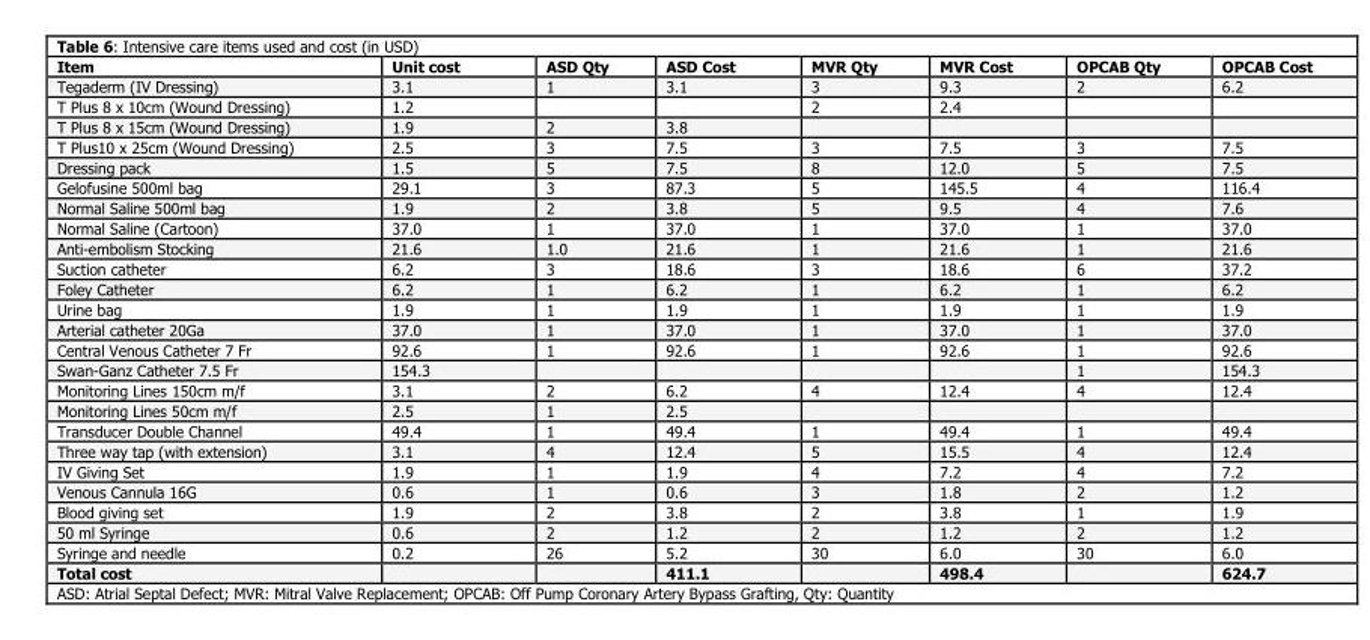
<table><thead><tr><td>Item</td><td>Unit cost</td><td>ASD Qty</td><td>ASD Cost</td><td>MVR Qty</td><td>MVR Cost</td><td>OPCAB Qty</td><td>OPCAB Cost</td></tr></thead><tbody><tr><td>Tegaderm (IV Dressing)</td><td>3.1</td><td>1</td><td>3.1</td><td>3</td><td>9.3</td><td>2</td><td>6.2</td></tr><tr><td>T Plus 8 x 10cm (Wound Dressing)</td><td>1.2</td><td></td><td></td><td>2</td><td>2.4</td><td></td><td></td></tr><tr><td>T Plus 8 x 15cm (Wound Dressing)</td><td>1.9</td><td>2</td><td>3.8</td><td></td><td></td><td></td><td></td></tr><tr><td>T Plus10 x 25cm (Wound Dressing)</td><td>2.5</td><td>3</td><td>7.5</td><td>3</td><td>7.5</td><td>3</td><td>7.5</td></tr><tr><td>Dressing pack</td><td>1.5</td><td>5</td><td>7.5</td><td>8</td><td>12.0</td><td>5</td><td>7.5</td></tr><tr><td>Gelofusine 500ml bag</td><td>29.1</td><td>3</td><td>87.3</td><td>5</td><td>145.5</td><td>4</td><td>116.4</td></tr><tr><td>Normal Saline 500ml bag</td><td>1.9</td><td>2</td><td>3.8</td><td>5</td><td>9.5</td><td>4</td><td>7.6</td></tr><tr><td>Normal Saline (Cartoon)</td><td>37.0</td><td>1</td><td>37.0</td><td>1</td><td>37.0</td><td>1</td><td>37.0</td></tr><tr><td>Anti-embolism Stocking</td><td>21.6</td><td>1.0</td><td>21.6</td><td>1</td><td>21.6</td><td>1</td><td>21.6</td></tr><tr><td>Suction catheter</td><td>6.2</td><td>3</td><td>18.6</td><td>3</td><td>18.6</td><td>6</td><td>37.2</td></tr><tr><td>Foley Catheter</td><td>6.2</td><td>1</td><td>6.2</td><td>1</td><td>6.2</td><td>1</td><td>6.2</td></tr><tr><td>Urine bag</td><td>1.9</td><td>1</td><td>1.9</td><td>1</td><td>1.9</td><td>1</td><td>1.9</td></tr><tr><td>Arterial catheter 20Ga</td><td>37.0</td><td>1</td><td>37.0</td><td>1</td><td>37.0</td><td>1</td><td>37.0</td></tr><tr><td>Central Venous Catheter 7 Fr</td><td>92.6</td><td>1</td><td>92.6</td><td>1</td><td>92.6</td><td>1</td><td>92.6</td></tr><tr><td>Swan-Ganz Catheter 7.5 Fr</td><td>154.3</td><td></td><td></td><td></td><td></td><td>1</td><td>154.3</td></tr><tr><td>Monitoring Lines 150cm m/f</td><td>3.1</td><td>2</td><td>6.2</td><td>4</td><td>12.4</td><td>4</td><td>12.4</td></tr><tr><td>Monitoring Lines 50cm m/f</td><td>2.5</td><td>1</td><td>2.5</td><td></td><td></td><td></td><td></td></tr><tr><td>Transducer Double Channel</td><td>49.4</td><td>1</td><td>49.4</td><td>1</td><td>49.4</td><td>1</td><td>49.4</td></tr><tr><td>Three way tap (with extension)</td><td>3.1</td><td>4</td><td>12.4</td><td>5</td><td>15.5</td><td>4</td><td>12.4</td></tr><tr><td>IV Giving Set</td><td>1.9</td><td>1</td><td>1.9</td><td>4</td><td>7.2</td><td>4</td><td>7.2</td></tr><tr><td>Venous Cannula 16G</td><td>0.6</td><td>1</td><td>0.6</td><td>3</td><td>1.8</td><td>2</td><td>1.2</td></tr><tr><td>Blood giving set</td><td>1.9</td><td>2</td><td>3.8</td><td>2</td><td>3.8</td><td>1</td><td>1.9</td></tr><tr><td>50 ml Syringe</td><td>0.6</td><td>2</td><td>1.2</td><td>2</td><td>1.2</td><td>2</td><td>1.2</td></tr><tr><td>Syringe and needle</td><td>0.2</td><td>26</td><td>5.2</td><td>30</td><td>6.0</td><td>30</td><td>6.0</td></tr><tr><td>Total cost</td><td></td><td></td><td>411.1</td><td></td><td>498.4</td><td></td><td>624.7</td></tr></tbody></table>